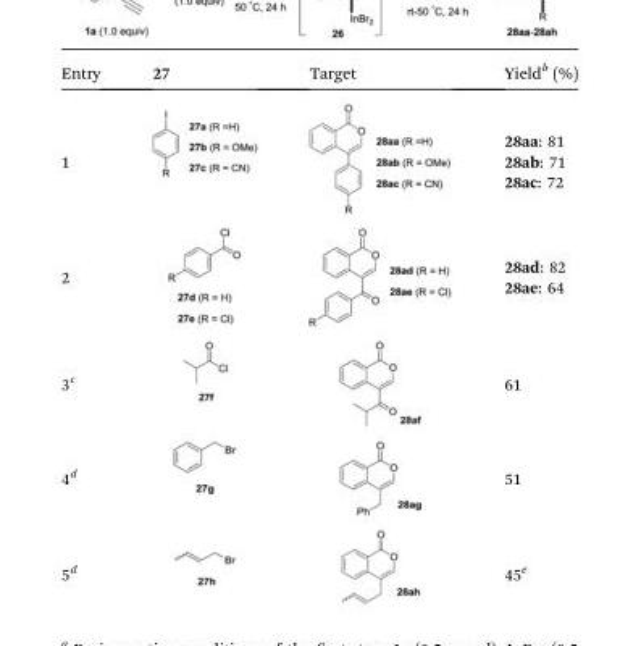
<table><thead><tr><td>Entry</td><td>27</td><td>Target</td><td>Yield<sup>b</sup> (%)</td></tr></thead><tbody><tr><td>1</td><td></td><td></td><td>28aa: 81 28ab: 71 28ac: 72</td></tr><tr><td>2</td><td></td><td></td><td>28ad: 82 28ae: 64</td></tr><tr><td>3<sup>c</sup></td><td></td><td></td><td>61</td></tr><tr><td>4<sup>d</sup></td><td></td><td></td><td>51</td></tr><tr><td>5<sup>d</sup></td><td></td><td></td><td>45<sup>e</sup></td></tr></tbody></table>